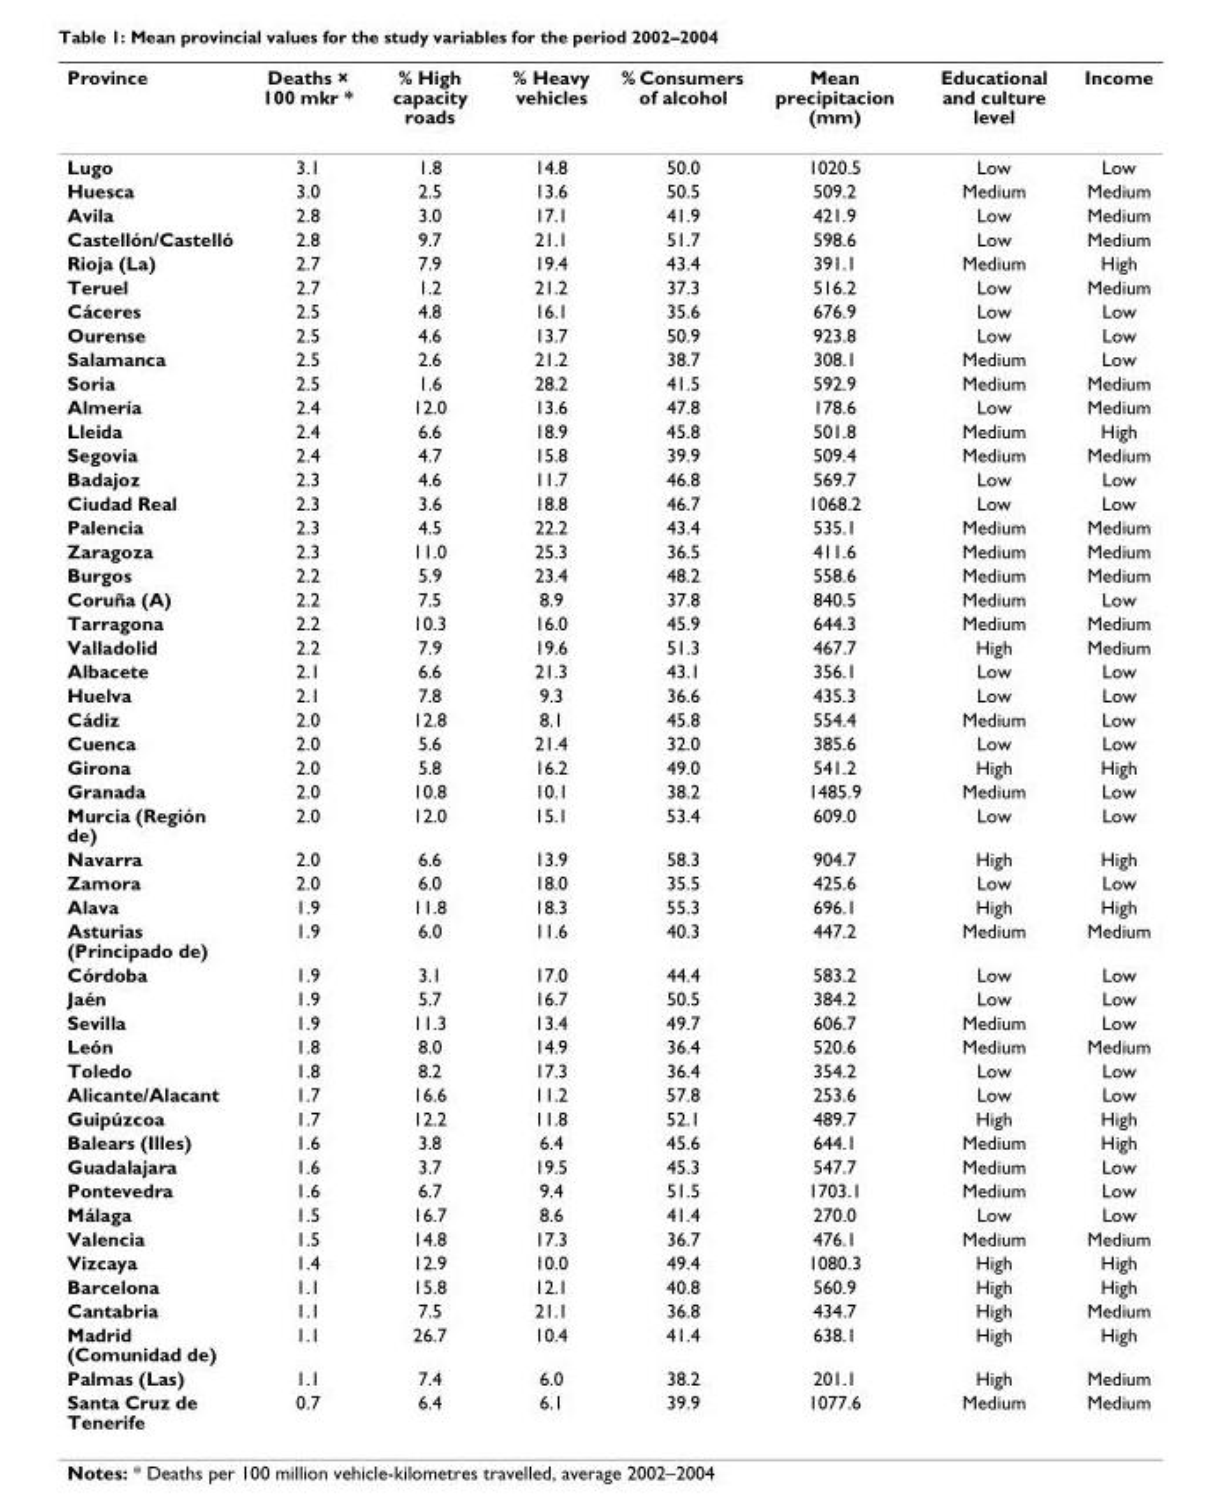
<table><thead><tr><td>Province</td><td>Deaths × 100 mkr *</td><td>% High capacity roads</td><td>% Heavy vehicles</td><td>% Consumers of alcohol</td><td>Mean precipitacion (mm)</td><td>Educational and culture level</td><td>Income</td></tr></thead><tbody><tr><td>Lugo</td><td>3.1</td><td>1.8</td><td>14.8</td><td>50.0</td><td>1020.5</td><td>Low</td><td>Low</td></tr><tr><td>Huesca</td><td>3.0</td><td>2.5</td><td>13.6</td><td>50.5</td><td>509.2</td><td>Medium</td><td>Medium</td></tr><tr><td>Avila</td><td>2.8</td><td>3.0</td><td>17.1</td><td>41.9</td><td>421.9</td><td>Low</td><td>Medium</td></tr><tr><td>Castellón/Castelló</td><td>2.8</td><td>9.7</td><td>21.1</td><td>51.7</td><td>598.6</td><td>Low</td><td>Medium</td></tr><tr><td>Rioja (La)</td><td>2.7</td><td>7.9</td><td>19.4</td><td>43.4</td><td>391.1</td><td>Medium</td><td>High</td></tr><tr><td>Teruel</td><td>2.7</td><td>1.2</td><td>21.2</td><td>37.3</td><td>516.2</td><td>Low</td><td>Medium</td></tr><tr><td>Cáceres</td><td>2.5</td><td>4.8</td><td>16.1</td><td>35.6</td><td>676.9</td><td>Low</td><td>Low</td></tr><tr><td>Ourense</td><td>2.5</td><td>4.6</td><td>13.7</td><td>50.9</td><td>923.8</td><td>Low</td><td>Low</td></tr><tr><td>Salamanca</td><td>2.5</td><td>2.6</td><td>21.2</td><td>38.7</td><td>308.1</td><td>Medium</td><td>Low</td></tr><tr><td>Soria</td><td>2.5</td><td>1.6</td><td>28.2</td><td>41.5</td><td>592.9</td><td>Medium</td><td>Medium</td></tr><tr><td>Almería</td><td>2.4</td><td>12.0</td><td>13.6</td><td>47.8</td><td>178.6</td><td>Low</td><td>Medium</td></tr><tr><td>Lleida</td><td>2.4</td><td>6.6</td><td>18.9</td><td>45.8</td><td>501.8</td><td>Medium</td><td>High</td></tr><tr><td>Segovia</td><td>2.4</td><td>4.7</td><td>15.8</td><td>39.9</td><td>509.4</td><td>Medium</td><td>Medium</td></tr><tr><td>Badajoz</td><td>2.3</td><td>4.6</td><td>11.7</td><td>46.8</td><td>569.7</td><td>Low</td><td>Low</td></tr><tr><td>Ciudad Real</td><td>2.3</td><td>3.6</td><td>18.8</td><td>46.7</td><td>1068.2</td><td>Low</td><td>Low</td></tr><tr><td>Palencia</td><td>2.3</td><td>4.5</td><td>22.2</td><td>43.4</td><td>535.1</td><td>Medium</td><td>Medium</td></tr><tr><td>Zaragoza</td><td>2.3</td><td>11.0</td><td>25.3</td><td>36.5</td><td>411.6</td><td>Medium</td><td>Medium</td></tr><tr><td>Burgos</td><td>2.2</td><td>5.9</td><td>23.4</td><td>48.2</td><td>558.6</td><td>Medium</td><td>Medium</td></tr><tr><td>Coruña (A)</td><td>2.2</td><td>7.5</td><td>8.9</td><td>37.8</td><td>840.5</td><td>Medium</td><td>Low</td></tr><tr><td>Tarragona</td><td>2.2</td><td>10.3</td><td>16.0</td><td>45.9</td><td>644.3</td><td>Medium</td><td>Medium</td></tr><tr><td>Valladolid</td><td>2.2</td><td>7.9</td><td>19.6</td><td>51.3</td><td>467.7</td><td>High</td><td>Medium</td></tr><tr><td>Albacete</td><td>2.1</td><td>6.6</td><td>21.3</td><td>43.1</td><td>356.1</td><td>Low</td><td>Low</td></tr><tr><td>Huelva</td><td>2.1</td><td>7.8</td><td>9.3</td><td>36.6</td><td>435.3</td><td>Low</td><td>Low</td></tr><tr><td>Cádiz</td><td>2.0</td><td>12.8</td><td>8.1</td><td>45.8</td><td>554.4</td><td>Medium</td><td>Low</td></tr><tr><td>Cuenca</td><td>2.0</td><td>5.6</td><td>21.4</td><td>32.0</td><td>385.6</td><td>Low</td><td>Low</td></tr><tr><td>Girona</td><td>2.0</td><td>5.8</td><td>16.2</td><td>49.0</td><td>541.2</td><td>High</td><td>High</td></tr><tr><td>Granada</td><td>2.0</td><td>10.8</td><td>10.1</td><td>38.2</td><td>1485.9</td><td>Medium</td><td>Low</td></tr><tr><td>Murcia (Región de)</td><td>2.0</td><td>12.0</td><td>15.1</td><td>53.4</td><td>609.0</td><td>Low</td><td>Low</td></tr><tr><td>Navarra</td><td>2.0</td><td>6.6</td><td>13.9</td><td>58.3</td><td>904.7</td><td>High</td><td>High</td></tr><tr><td>Zamora</td><td>2.0</td><td>6.0</td><td>18.0</td><td>35.5</td><td>425.6</td><td>Low</td><td>Low</td></tr><tr><td>Alava</td><td>1.9</td><td>11.8</td><td>18.3</td><td>55.3</td><td>696.1</td><td>High</td><td>High</td></tr><tr><td>Asturias (Principado de)</td><td>1.9</td><td>6.0</td><td>11.6</td><td>40.3</td><td>447.2</td><td>Medium</td><td>Medium</td></tr><tr><td>Córdoba</td><td>1.9</td><td>3.1</td><td>17.0</td><td>44.4</td><td>583.2</td><td>Low</td><td>Low</td></tr><tr><td>Jaén</td><td>1.9</td><td>5.7</td><td>16.7</td><td>50.5</td><td>384.2</td><td>Low</td><td>Low</td></tr><tr><td>Sevilla</td><td>1.9</td><td>11.3</td><td>13.4</td><td>49.7</td><td>606.7</td><td>Medium</td><td>Low</td></tr><tr><td>León</td><td>1.8</td><td>8.0</td><td>14.9</td><td>36.4</td><td>520.6</td><td>Medium</td><td>Medium</td></tr><tr><td>Toledo</td><td>1.8</td><td>8.2</td><td>17.3</td><td>36.4</td><td>354.2</td><td>Low</td><td>Low</td></tr><tr><td>Alicante/Alacant</td><td>1.7</td><td>16.6</td><td>11.2</td><td>57.8</td><td>253.6</td><td>Low</td><td>Low</td></tr><tr><td>Guipúzcoa</td><td>1.7</td><td>12.2</td><td>11.8</td><td>52.1</td><td>489.7</td><td>High</td><td>High</td></tr><tr><td>Balears (Illes)</td><td>1.6</td><td>3.8</td><td>6.4</td><td>45.6</td><td>644.1</td><td>Medium</td><td>High</td></tr><tr><td>Guadalajara</td><td>1.6</td><td>3.7</td><td>19.5</td><td>45.3</td><td>547.7</td><td>Medium</td><td>Low</td></tr><tr><td>Pontevedra</td><td>1.6</td><td>6.7</td><td>9.4</td><td>51.5</td><td>1703.1</td><td>Medium</td><td>Low</td></tr><tr><td>Málaga</td><td>1.5</td><td>16.7</td><td>8.6</td><td>41.4</td><td>270.0</td><td>Low</td><td>Low</td></tr><tr><td>Valencia</td><td>1.5</td><td>14.8</td><td>17.3</td><td>36.7</td><td>476.1</td><td>Medium</td><td>Medium</td></tr><tr><td>Vizcaya</td><td>1.4</td><td>12.9</td><td>10.0</td><td>49.4</td><td>1080.3</td><td>High</td><td>High</td></tr><tr><td>Barcelona</td><td>1.1</td><td>15.8</td><td>12.1</td><td>40.8</td><td>560.9</td><td>High</td><td>High</td></tr><tr><td>Cantabria</td><td>1.1</td><td>7.5</td><td>21.1</td><td>36.8</td><td>434.7</td><td>High</td><td>Medium</td></tr><tr><td>Madrid (Comunidad de)</td><td>1.1</td><td>26.7</td><td>10.4</td><td>41.4</td><td>638.1</td><td>High</td><td>High</td></tr><tr><td>Palmas (Las)</td><td>1.1</td><td>7.4</td><td>6.0</td><td>38.2</td><td>201.1</td><td>High</td><td>Medium</td></tr><tr><td>Santa Cruz de Tenerife</td><td>0.7</td><td>6.4</td><td>6.1</td><td>39.9</td><td>1077.6</td><td>Medium</td><td>Medium</td></tr></tbody></table>